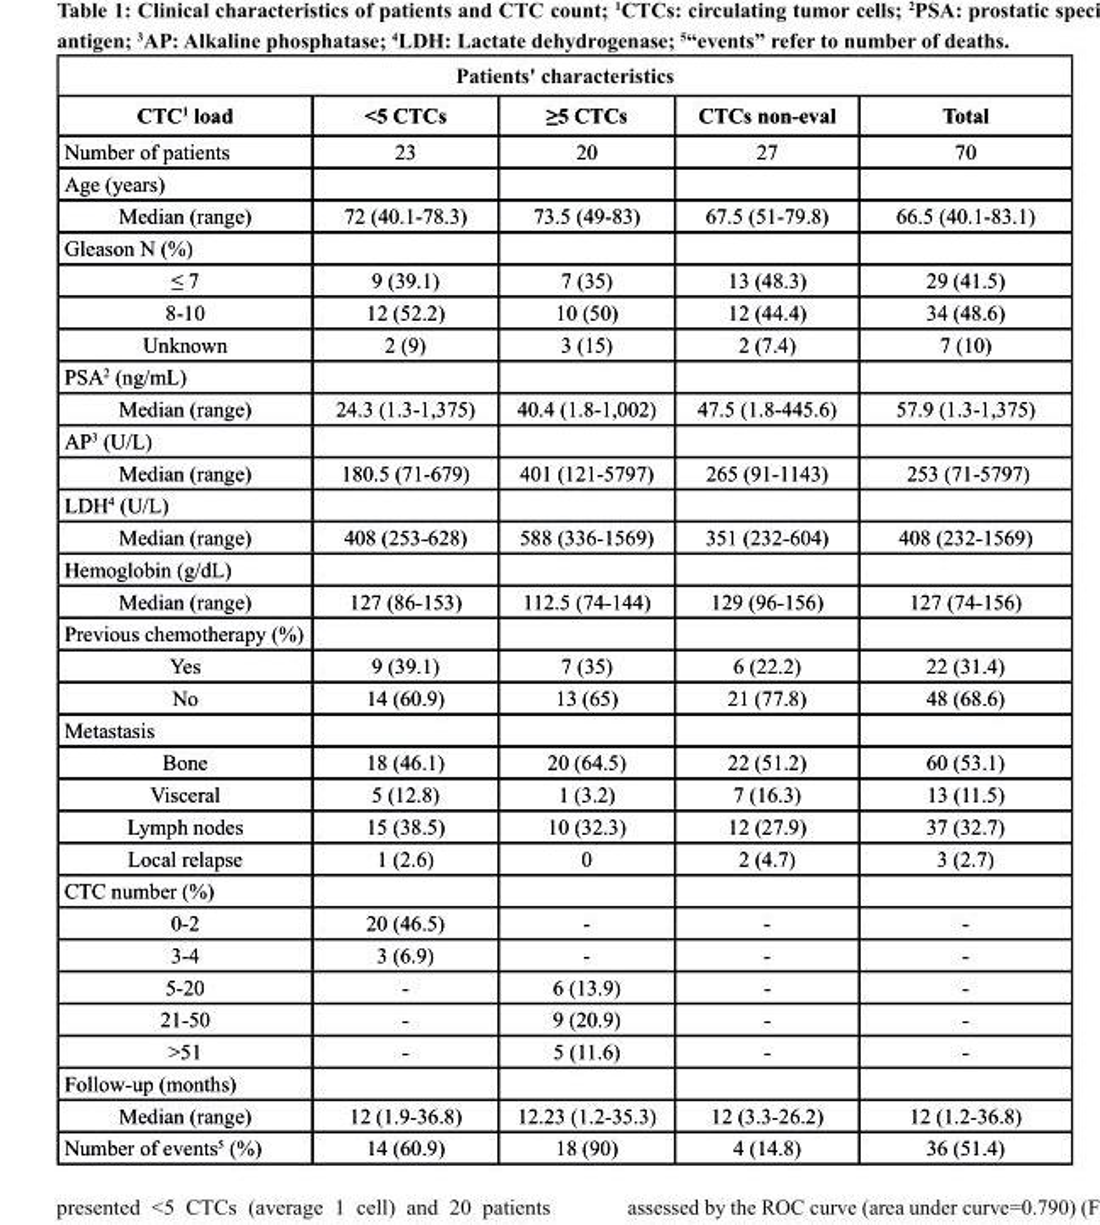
<table><thead><tr><td colspan="5">Patients&#x27; characteristics</td></tr><tr><td>ctc<sup>1</sup> load</td><td>&lt;5 ctcs</td><td>≥5 CTCs</td><td>ctcs non-eval</td><td>total</td></tr></thead><tbody><tr><td>Number of patients</td><td>23</td><td>20</td><td>27</td><td>70</td></tr><tr><td colspan="5">Age (years)</td></tr><tr><td>Median (range)</td><td>72 (40.1-78.3)</td><td>73.5 (49-83)</td><td>67.5 (51-79.8)</td><td>66.5 (40.1-83.1)</td></tr><tr><td colspan="5">Gleason N (%)</td></tr><tr><td>≤ 7</td><td>9 (39.1)</td><td>7 (35)</td><td>13 (48.3)</td><td>29 (41.5)</td></tr><tr><td>8-10</td><td>12 (52.2)</td><td>10 (50)</td><td>12 (44.4)</td><td>34 (48.6)</td></tr><tr><td>Unknown</td><td>2 (9)</td><td>3 (15)</td><td>2 (7.4)</td><td>7 (10)</td></tr><tr><td colspan="5">PSA<sup>2</sup> (ng/mL)</td></tr><tr><td>Median (range)</td><td>24.3 (1.3-1,375)</td><td>40.4 (1.8-1,002)</td><td>47.5 (1.8-445.6)</td><td>57.9 (1.3-1,375)</td></tr><tr><td colspan="5">AP<sup>3</sup> (U/L)</td></tr><tr><td>Median (range)</td><td>180.5 (71-679)</td><td>401 (121-5797)</td><td>265 (91-1143)</td><td>253 (71-5797)</td></tr><tr><td colspan="5">LDH<sup>4</sup> (U/L)</td></tr><tr><td>Median (range)</td><td>408 (253-628)</td><td>588 (336-1569)</td><td>351 (232-604)</td><td>408 (232-1569)</td></tr><tr><td colspan="5">Hemoglobin (g/dL)</td></tr><tr><td>Median (range)</td><td>127 (86-153)</td><td>112.5 (74-144)</td><td>129 (96-156)</td><td>127 (74-156)</td></tr><tr><td colspan="5">Previous chemotherapy (%)</td></tr><tr><td>Yes</td><td>9 (39.1)</td><td>7 (35)</td><td>6 (22.2)</td><td>22 (31.4)</td></tr><tr><td>No</td><td>14 (60.9)</td><td>13 (65)</td><td>21 (77.8)</td><td>48 (68.6)</td></tr><tr><td colspan="5">Metastasis</td></tr><tr><td>Bone</td><td>18 (46.1)</td><td>20 (64.5)</td><td>22 (51.2)</td><td>60 (53.1)</td></tr><tr><td>Visceral</td><td>5 (12.8)</td><td>1 (3.2)</td><td>7 (16.3)</td><td>13 (11.5)</td></tr><tr><td>Lymph nodes</td><td>15 (38.5)</td><td>10 (32.3)</td><td>12 (27.9)</td><td>37 (32.7)</td></tr><tr><td>Local relapse</td><td>1 (2.6)</td><td>0</td><td>2 (4.7)</td><td>3 (2.7)</td></tr><tr><td colspan="5">CTC number (%)</td></tr><tr><td>0-2</td><td>20 (46.5)</td><td>-</td><td>-</td><td>-</td></tr><tr><td>3-4</td><td>3 (6.9)</td><td>-</td><td>-</td><td>-</td></tr><tr><td>5-20</td><td>-</td><td>6 (13.9)</td><td>-</td><td>-</td></tr><tr><td>21-50</td><td>-</td><td>9 (20.9)</td><td>-</td><td>-</td></tr><tr><td>&gt;51</td><td>-</td><td>5 (11.6)</td><td>-</td><td>-</td></tr><tr><td colspan="5">Follow-up (months)</td></tr><tr><td>Median (range)</td><td>12 (1.9-36.8)</td><td>12.23 (1.2-35.3)</td><td>12 (3.3-26.2)</td><td>12 (1.2-36.8)</td></tr><tr><td>Number of events<sup>5</sup> (%)</td><td>14 (60.9)</td><td>18 (90)</td><td>4 (14.8)</td><td>36 (51.4)</td></tr></tbody></table>